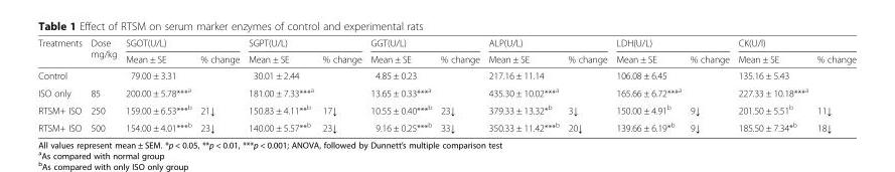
<table><thead><tr><td rowspan="2">Treatments</td><td rowspan="2">Dose mg/kg</td><td colspan="2">SGOT(U/L)</td><td colspan="2">SGPT(U/L)</td><td colspan="2">GGT(U/L)</td><td colspan="2">ALP(U/L)</td><td colspan="2">LDH(U/L)</td><td colspan="2">CK(U/l)</td></tr><tr><td>Mean ± SE</td><td>% change</td><td>Mean ± SE</td><td>% change</td><td>Mean ± SE</td><td>% change</td><td>Mean ± SE</td><td>% change</td><td>Mean ± SE</td><td>% change</td><td>Mean ± SE</td><td>% change</td></tr></thead><tbody><tr><td>Control</td><td></td><td>79.00 ± 3.31</td><td></td><td>30.01 ± 2.44</td><td></td><td>4.85 ± 0.23</td><td></td><td>217.16 ± 11.14</td><td></td><td>106.08 ± 6.45</td><td></td><td>135.16 ± 5.43</td><td></td></tr><tr><td>ISO only</td><td>85</td><td>200.00 ± 5.78***<sup>a</sup></td><td></td><td>181.00 ± 7.33***<sup>a</sup></td><td></td><td>13.65 ± 0.33***<sup>a</sup></td><td></td><td>435.30 ± 10.02***<sup>a</sup></td><td></td><td>165.66 ± 6.72***<sup>a</sup></td><td></td><td>227.33 ± 10.18***<sup>a</sup></td><td></td></tr><tr><td>RTSM+ ISO</td><td>250</td><td>159.00 ± 6.53***<sup>b</sup></td><td>21↓</td><td>150.83 ± 4.11**<sup>b</sup></td><td>17↓</td><td>10.55 ± 0.40***<sup>b</sup></td><td>23↓</td><td>379.33 ± 13.32*<sup>b</sup></td><td>3↓</td><td>150.00 ± 4.91<sup>b</sup></td><td>9↓</td><td>201.50 ± 5.51<sup>b</sup></td><td>11↓</td></tr><tr><td>RTSM+ ISO</td><td>500</td><td>154.00 ± 4.01***<sup>b</sup></td><td>23↓</td><td>140.00 ± 5.57**<sup>b</sup></td><td>23↓</td><td>9.16 ± 0.25***<sup>b</sup></td><td>33↓</td><td>350.33 ± 11.42***<sup>b</sup></td><td>20↓</td><td>139.66 ± 6.19*<sup>b</sup></td><td>9↓</td><td>185.50 ± 7.34*<sup>b</sup></td><td>18↓</td></tr></tbody></table>